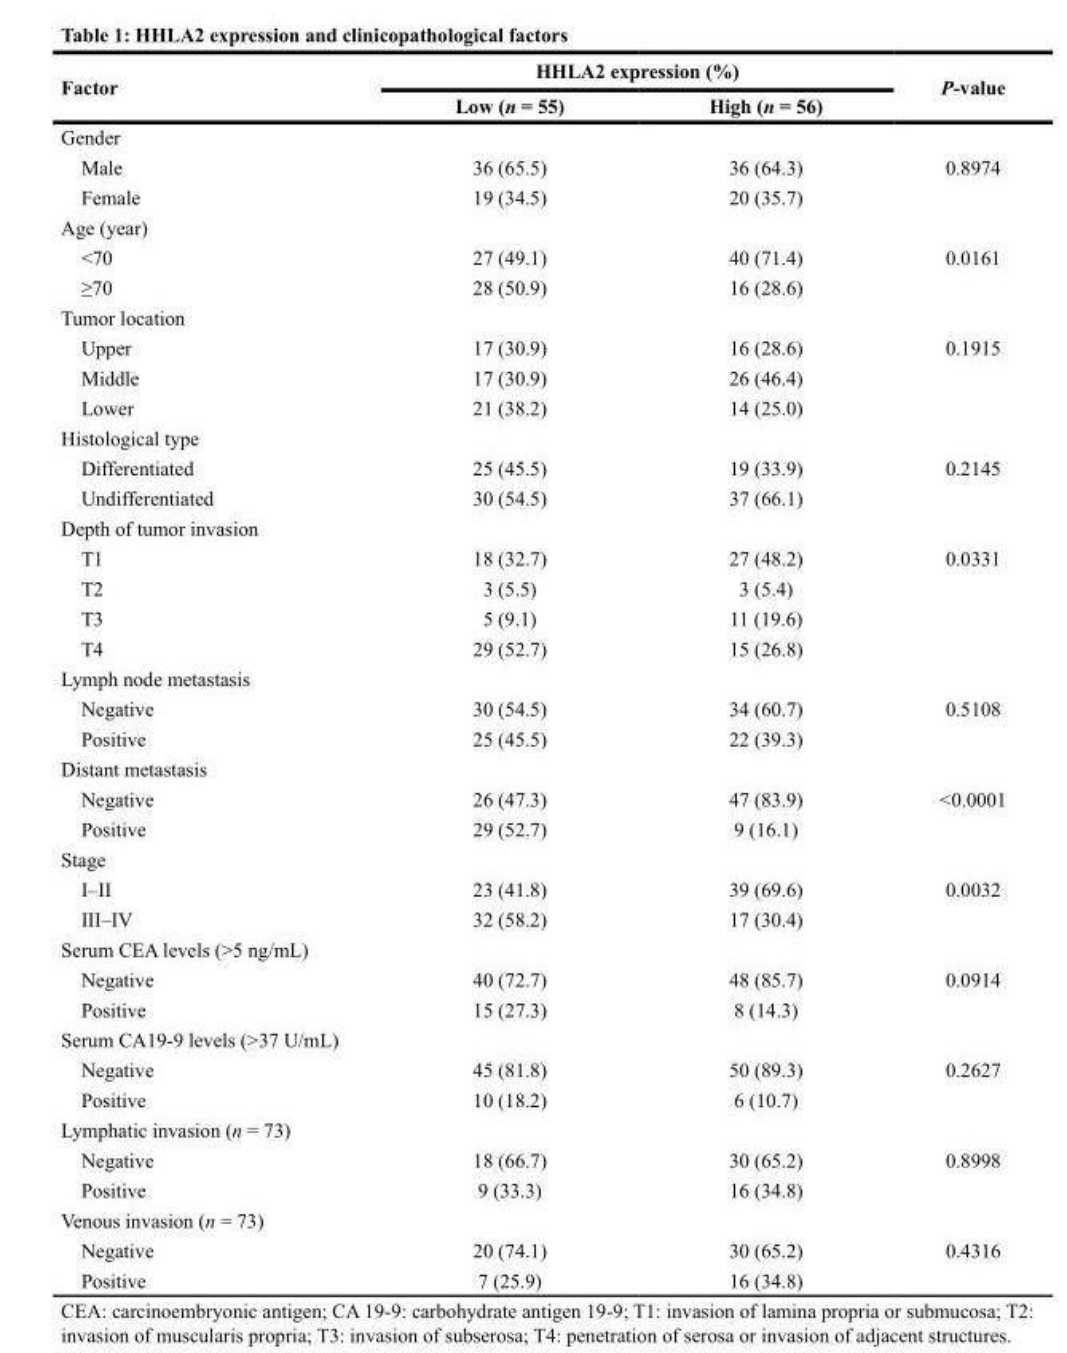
<table><thead><tr><td rowspan="2">Factor</td><td colspan="2">HHLA2 expression (%)</td><td rowspan="2">P-value</td></tr><tr><td>Low (n = 55)</td><td>High (n = 56)</td></tr></thead><tbody><tr><td colspan="4">Gender</td></tr><tr><td>Male</td><td>36 (65.5)</td><td>36 (64.3)</td><td>0.8974</td></tr><tr><td>Female</td><td>19 (34.5)</td><td>20 (35.7)</td><td></td></tr><tr><td colspan="4">Age (year)</td></tr><tr><td>&lt;70</td><td>27 (49.1)</td><td>40 (71.4)</td><td>0.0161</td></tr><tr><td>≥70</td><td>28 (50.9)</td><td>16 (28.6)</td><td></td></tr><tr><td colspan="4">Tumor location</td></tr><tr><td>Upper</td><td>17 (30.9)</td><td>16 (28.6)</td><td>0.1915</td></tr><tr><td>Middle</td><td>17 (30.9)</td><td>26 (46.4)</td><td></td></tr><tr><td>Lower</td><td>21 (38.2)</td><td>14 (25.0)</td><td></td></tr><tr><td colspan="4">Histological type</td></tr><tr><td>Differentiated</td><td>25 (45.5)</td><td>19 (33.9)</td><td>0.2145</td></tr><tr><td>Undifferentiated</td><td>30 (54.5)</td><td>37 (66.1)</td><td></td></tr><tr><td colspan="4">Depth of tumor invasion</td></tr><tr><td>T1</td><td>18 (32.7)</td><td>27 (48.2)</td><td>0.0331</td></tr><tr><td>T2</td><td>3 (5.5)</td><td>3 (5.4)</td><td></td></tr><tr><td>T3</td><td>5 (9.1)</td><td>11 (19.6)</td><td></td></tr><tr><td>T4</td><td>29 (52.7)</td><td>15 (26.8)</td><td></td></tr><tr><td colspan="4">Lymph node metastasis</td></tr><tr><td>Negative</td><td>30 (54.5)</td><td>34 (60.7)</td><td>0.5108</td></tr><tr><td>Positive</td><td>25 (45.5)</td><td>22 (39.3)</td><td></td></tr><tr><td colspan="4">Distant metastasis</td></tr><tr><td>Negative</td><td>26 (47.3)</td><td>47 (83.9)</td><td>&lt;0.0001</td></tr><tr><td>Positive</td><td>29 (52.7)</td><td>9 (16.1)</td><td></td></tr><tr><td colspan="4">Stage</td></tr><tr><td>I–II</td><td>23 (41.8)</td><td>39 (69.6)</td><td>0.0032</td></tr><tr><td>III–IV</td><td>32 (58.2)</td><td>17 (30.4)</td><td></td></tr><tr><td colspan="4">Serum CEA levels (&gt;5 ng/mL)</td></tr><tr><td>Negative</td><td>40 (72.7)</td><td>48 (85.7)</td><td>0.0914</td></tr><tr><td>Positive</td><td>15 (27.3)</td><td>8 (14.3)</td><td></td></tr><tr><td colspan="4">Serum CA19-9 levels (&gt;37 U/mL)</td></tr><tr><td>Negative</td><td>45 (81.8)</td><td>50 (89.3)</td><td>0.2627</td></tr><tr><td>Positive</td><td>10 (18.2)</td><td>6 (10.7)</td><td></td></tr><tr><td colspan="4">Lymphatic invasion (n = 73)</td></tr><tr><td>Negative</td><td>18 (66.7)</td><td>30 (65.2)</td><td>0.8998</td></tr><tr><td>Positive</td><td>9 (33.3)</td><td>16 (34.8)</td><td></td></tr><tr><td colspan="4">Venous invasion (n = 73)</td></tr><tr><td>Negative</td><td>20 (74.1)</td><td>30 (65.2)</td><td>0.4316</td></tr><tr><td>Positive</td><td>7 (25.9)</td><td>16 (34.8)</td><td></td></tr></tbody></table>